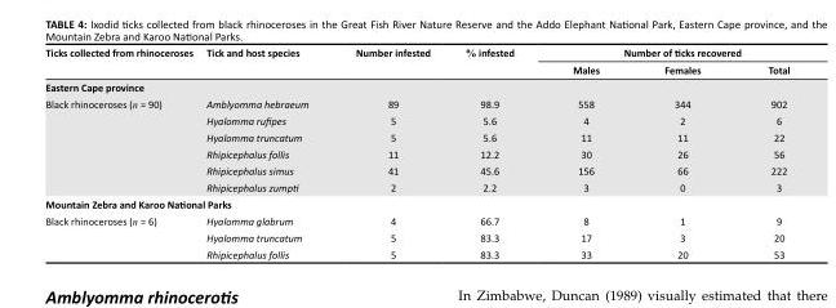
<table><thead><tr><td rowspan="2">Ticks collected from rhinoceroses</td><td rowspan="2">Tick and host species</td><td rowspan="2">Number infested</td><td rowspan="2">% infested</td><td colspan="3">Number of ticks recovered</td></tr><tr><td>Males</td><td>Females</td><td>Total</td></tr></thead><tbody><tr><td colspan="7">Eastern Cape province</td></tr><tr><td rowspan="6">Black rhinoceroses (n = 90)</td><td>Amblyomma hebraeum</td><td>89</td><td>98.9</td><td>558</td><td>344</td><td>902</td></tr><tr><td>Hyalomma rufipes</td><td>5</td><td>5.6</td><td>4</td><td>2</td><td>6</td></tr><tr><td>Hyalomma truncatum</td><td>5</td><td>5.6</td><td>11</td><td>11</td><td>22</td></tr><tr><td>Rhipicephalus follis</td><td>11</td><td>12.2</td><td>30</td><td>26</td><td>56</td></tr><tr><td>Rhipicephalus simus</td><td>41</td><td>45.6</td><td>156</td><td>66</td><td>222</td></tr><tr><td>Rhipicephalus zumpti</td><td>2</td><td>2.2</td><td>3</td><td>0</td><td>3</td></tr><tr><td colspan="7">Mountain Zebra and Karoo National Parks</td></tr><tr><td rowspan="3">Black rhinoceroses (n = 6)</td><td>Hyalomma glabrum</td><td>4</td><td>66.7</td><td>8</td><td>1</td><td>9</td></tr><tr><td>Hyalomma truncatum</td><td>5</td><td>83.3</td><td>17</td><td>3</td><td>20</td></tr><tr><td>Rhipicephalus follis</td><td>5</td><td>83.3</td><td>33</td><td>20</td><td>53</td></tr></tbody></table>